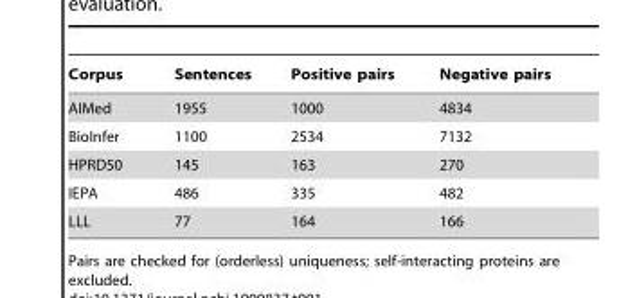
<table><thead><tr><td>Corpus</td><td>Sentences</td><td>Positive pairs</td><td>Negative pairs</td></tr></thead><tbody><tr><td>AIMed</td><td>1955</td><td>1000</td><td>4834</td></tr><tr><td>BioInfer</td><td>1100</td><td>2534</td><td>7132</td></tr><tr><td>HPRD50</td><td>145</td><td>163</td><td>270</td></tr><tr><td>IEPA</td><td>486</td><td>335</td><td>482</td></tr><tr><td>LLL</td><td>77</td><td>164</td><td>166</td></tr></tbody></table>